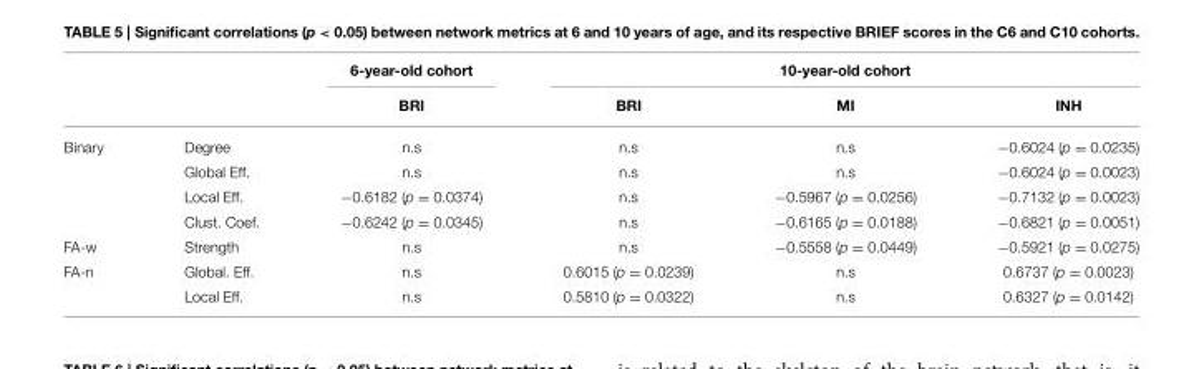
<table><thead><tr><td rowspan="2"></td><td rowspan="2"></td><td rowspan="2">6-year-old cohort BRI</td><td colspan="3">10-year-old cohort</td></tr><tr><td>BRI</td><td>MI</td><td>INH</td></tr></thead><tbody><tr><td rowspan="4">Binary</td><td>Degree</td><td>n.s</td><td>n.s</td><td>n.s</td><td>−0.6024 (p = 0.0235)</td></tr><tr><td>Global Eff.</td><td>n.s</td><td>n.s</td><td>n.s</td><td>−0.6024 (p = 0.0023)</td></tr><tr><td>Local Eff.</td><td>−0.6182 (p = 0.0374)</td><td>n.s</td><td>−0.5967 (p = 0.0256)</td><td>−0.7132 (p = 0.0023)</td></tr><tr><td>Clust. Coef.</td><td>−0.6242 (p = 0.0345)</td><td>n.s</td><td>−0.6165 (p = 0.0188)</td><td>−0.6821 (p = 0.0051)</td></tr><tr><td>FA-w</td><td>Strength</td><td>n.s</td><td>n.s</td><td>−0.5558 (p = 0.0449)</td><td>−0.5921 (p = 0.0275)</td></tr><tr><td rowspan="2">FA-n</td><td>Global. Eff.</td><td>n.s</td><td>0.6015 (p = 0.0239)</td><td>n.s</td><td>0.6737 (p = 0.0023)</td></tr><tr><td>Local Eff.</td><td>n.s</td><td>0.5810 (p = 0.0322)</td><td>n.s</td><td>0.6327 (p = 0.0142)</td></tr></tbody></table>